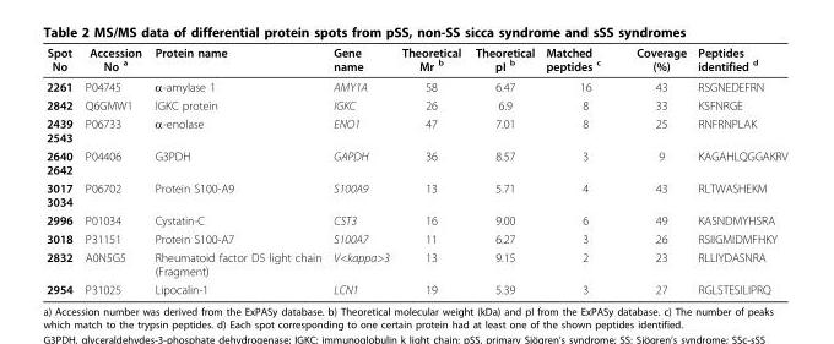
<table><thead><tr><td>Spot No</td><td>Accession No <sup>a</sup></td><td>Protein name</td><td>Gene name</td><td>Theoretical Mr <sup>b</sup></td><td>Theoretical pI <sup>b</sup></td><td>Matched peptides <sup>c</sup></td><td>Coverage (%)</td><td>Peptides identified <sup>d</sup></td></tr></thead><tbody><tr><td>2261</td><td>P04745</td><td>α-amylase 1</td><td>AMY1A</td><td>58</td><td>6.47</td><td>16</td><td>43</td><td>RSGNEDEFRN</td></tr><tr><td>2842</td><td>Q6GMW1</td><td>IGKC protein</td><td>IGKC</td><td>26</td><td>6.9</td><td>8</td><td>33</td><td>KSFNRGE</td></tr><tr><td>2439 2543</td><td>P06733</td><td>α-enolase</td><td>ENO1</td><td>47</td><td>7.01</td><td>8</td><td>25</td><td>RNFRNPLAK</td></tr><tr><td>2640 2642</td><td>P04406</td><td>G3PDH</td><td>GAPDH</td><td>36</td><td>8.57</td><td>3</td><td>9</td><td>KAGAHLQGGAKRV</td></tr><tr><td>3017 3034</td><td>P06702</td><td>Protein S100-A9</td><td>S100A9</td><td>13</td><td>5.71</td><td>4</td><td>43</td><td>RLTWASHEKM</td></tr><tr><td>2996</td><td>P01034</td><td>Cystatin-C</td><td>CST3</td><td>16</td><td>9.00</td><td>6</td><td>49</td><td>KASNDMYHSRA</td></tr><tr><td>3018</td><td>P31151</td><td>Protein S100-A7</td><td>S100A7</td><td>11</td><td>6.27</td><td>3</td><td>26</td><td>RSIIGMIDMFHKY</td></tr><tr><td>2832</td><td>A0N5G5</td><td>Rheumatoid factor D5 light chain (Fragment)</td><td>V&lt;kappa&gt;3</td><td>13</td><td>9.15</td><td>2</td><td>23</td><td>RLLIYDASNRA</td></tr><tr><td>2954</td><td>P31025</td><td>Lipocalin-1</td><td>LCN1</td><td>19</td><td>5.39</td><td>3</td><td>27</td><td>RGLSTESILIPRQ</td></tr></tbody></table>